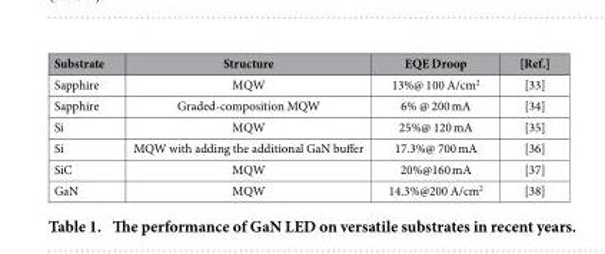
<table><thead><tr><td>Substrate</td><td>Structure</td><td>EQE Droop</td><td>[Ref.]</td></tr></thead><tbody><tr><td>Sapphire</td><td>MQW</td><td>13%@ 100 A/cm<sup>2</sup></td><td>[33]</td></tr><tr><td>Sapphire</td><td>Graded-composition MQW</td><td>6% @ 200 mA</td><td>[34]</td></tr><tr><td>Si</td><td>MQW</td><td>25%@ 120 mA</td><td>[35]</td></tr><tr><td>Si</td><td>MQW with adding the additional GaN buffer</td><td>17.3%@ 700 mA</td><td>[36]</td></tr><tr><td>SiC</td><td>MQW</td><td>20%@160 mA</td><td>[37]</td></tr><tr><td>GaN</td><td>MQW</td><td>14.3%@200 A/cm<sup>2</sup></td><td>[38]</td></tr></tbody></table>